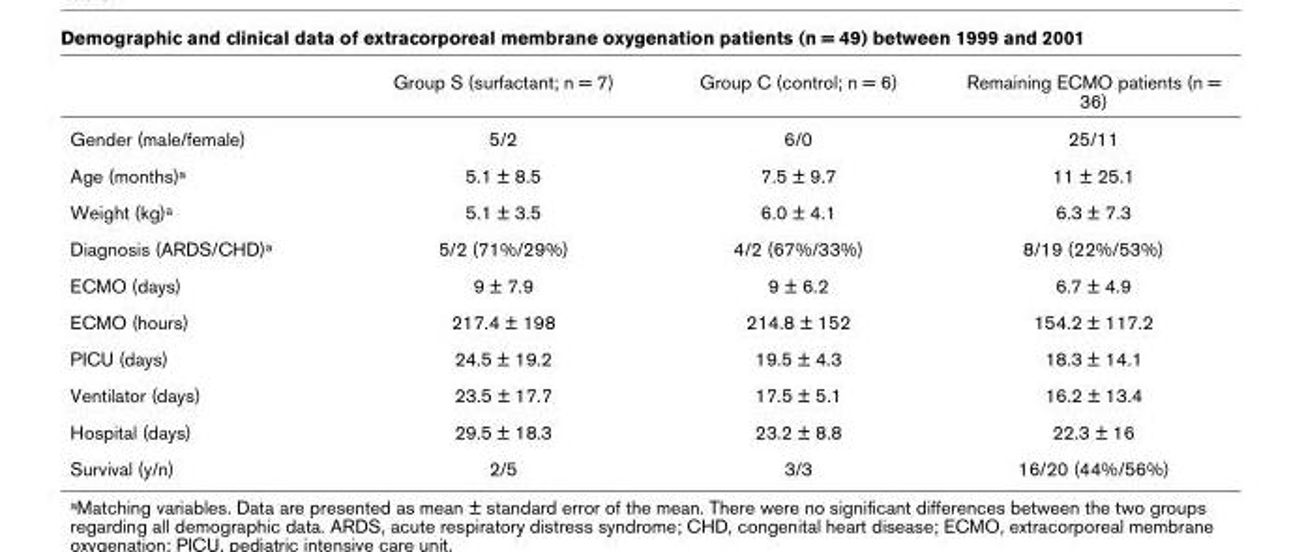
<table><thead><tr><td></td><td>Group S (surfactant; n = 7)</td><td>Group C (control; n = 6)</td><td>Remaining ECMO patients (n = 36)</td></tr></thead><tbody><tr><td>Gender (male/female)</td><td>5/2</td><td>6/0</td><td>25/11</td></tr><tr><td>Age (months)a</td><td>5.1 ± 8.5</td><td>7.5 ± 9.7</td><td>11 ± 25.1</td></tr><tr><td>Weight (kg)a</td><td>5.1 ± 3.5</td><td>6.0 ± 4.1</td><td>6.3 ± 7.3</td></tr><tr><td>Diagnosis (ARDS/CHD)a</td><td>5/2 (71%/29%)</td><td>4/2 (67%/33%)</td><td>8/19 (22%/53%)</td></tr><tr><td>ECMO (days)</td><td>9 ± 7.9</td><td>9 ± 6.2</td><td>6.7 ± 4.9</td></tr><tr><td>ECMO (hours)</td><td>217.4 ± 198</td><td>214.8 ± 152</td><td>154.2 ± 117.2</td></tr><tr><td>PICU (days)</td><td>24.5 ± 19.2</td><td>19.5 ± 4.3</td><td>18.3 ± 14.1</td></tr><tr><td>Ventilator (days)</td><td>23.5 ± 17.7</td><td>17.5 ± 5.1</td><td>16.2 ± 13.4</td></tr><tr><td>Hospital (days)</td><td>29.5 ± 18.3</td><td>23.2 ± 8.8</td><td>22.3 ± 16</td></tr><tr><td>Survival (y/n)</td><td>2/5</td><td>3/3</td><td>16/20 (44%/56%)</td></tr></tbody></table>